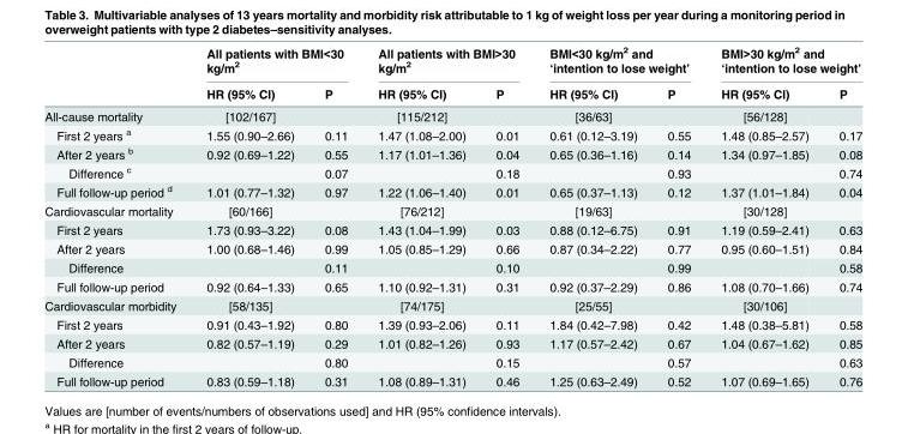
<table><thead><tr><td rowspan="2"></td><td colspan="2">All patients with BMI&lt;30 kg/m<sup>2</sup></td><td colspan="2">All patients with BMI&gt;30 kg/m<sup>2</sup></td><td colspan="2">BMI&lt;30 kg/m<sup>2</sup> and ‘intention to lose weight’</td><td colspan="2">BMI&gt;30 kg/m<sup>2</sup> and ‘intention to lose weight’</td></tr><tr><td>HR (95% CI)</td><td>P</td><td>HR (95% CI)</td><td>P</td><td>HR (95% CI)</td><td>P</td><td>HR (95% CI)</td><td>P</td></tr></thead><tbody><tr><td>All-cause mortality</td><td>[102/167]</td><td></td><td>[115/212]</td><td></td><td>[36/63]</td><td></td><td>[56/128]</td><td></td></tr><tr><td>First 2 years <sup>a</sup></td><td>1.55 (0.90–2.66)</td><td>0.11</td><td>1.47 (1.08–2.00)</td><td>0.01</td><td>0.61 (0.12–3.19)</td><td>0.55</td><td>1.48 (0.85–2.57)</td><td>0.17</td></tr><tr><td>After 2 years <sup>b</sup></td><td>0.92 (0.69–1.22)</td><td>0.55</td><td>1.17 (1.01–1.36)</td><td>0.04</td><td>0.65 (0.36–1.16)</td><td>0.14</td><td>1.34 (0.97–1.85)</td><td>0.08</td></tr><tr><td>Difference <sup>c</sup></td><td></td><td>0.07</td><td></td><td>0.18</td><td></td><td>0.93</td><td></td><td>0.74</td></tr><tr><td>Full follow-up period <sup>d</sup></td><td>1.01 (0.77–1.32)</td><td>0.97</td><td>1.22 (1.06–1.40)</td><td>0.01</td><td>0.65 (0.37–1.13)</td><td>0.12</td><td>1.37 (1.01–1.84)</td><td>0.04</td></tr><tr><td>Cardiovascular mortality</td><td>[60/166]</td><td></td><td>[76/212]</td><td></td><td>[19/63]</td><td></td><td>[30/128]</td><td></td></tr><tr><td>First 2 years</td><td>1.73 (0.93–3.22)</td><td>0.08</td><td>1.43 (1.04–1.99)</td><td>0.03</td><td>0.88 (0.12–6.75)</td><td>0.91</td><td>1.19 (0.59–2.41)</td><td>0.63</td></tr><tr><td>After 2 years</td><td>1.00 (0.68–1.46)</td><td>0.99</td><td>1.05 (0.85–1.29)</td><td>0.66</td><td>0.87 (0.34–2.22)</td><td>0.77</td><td>0.95 (0.60–1.51)</td><td>0.84</td></tr><tr><td>Difference</td><td></td><td>0.11</td><td></td><td>0.10</td><td></td><td>0.99</td><td></td><td>0.58</td></tr><tr><td>Full follow-up period</td><td>0.92 (0.64–1.33)</td><td>0.65</td><td>1.10 (0.92–1.31)</td><td>0.31</td><td>0.92 (0.37–2.29)</td><td>0.86</td><td>1.08 (0.70–1.66)</td><td>0.74</td></tr><tr><td>Cardiovascular morbidity</td><td>[58/135]</td><td></td><td>[74/175]</td><td></td><td>[25/55]</td><td></td><td>[30/106]</td><td></td></tr><tr><td>First 2 years</td><td>0.91 (0.43–1.92)</td><td>0.80</td><td>1.39 (0.93–2.06)</td><td>0.11</td><td>1.84 (0.42–7.98)</td><td>0.42</td><td>1.48 (0.38–5.81)</td><td>0.58</td></tr><tr><td>After 2 years</td><td>0.82 (0.57–1.19)</td><td>0.29</td><td>1.01 (0.82–1.26)</td><td>0.93</td><td>1.17 (0.57–2.42)</td><td>0.67</td><td>1.04 (0.67–1.62)</td><td>0.85</td></tr><tr><td>Difference</td><td></td><td>0.80</td><td></td><td>0.15</td><td></td><td>0.57</td><td></td><td>0.63</td></tr><tr><td>Full follow-up period</td><td>0.83 (0.59–1.18)</td><td>0.31</td><td>1.08 (0.89–1.31)</td><td>0.46</td><td>1.25 (0.63–2.49)</td><td>0.52</td><td>1.07 (0.69–1.65)</td><td>0.76</td></tr></tbody></table>